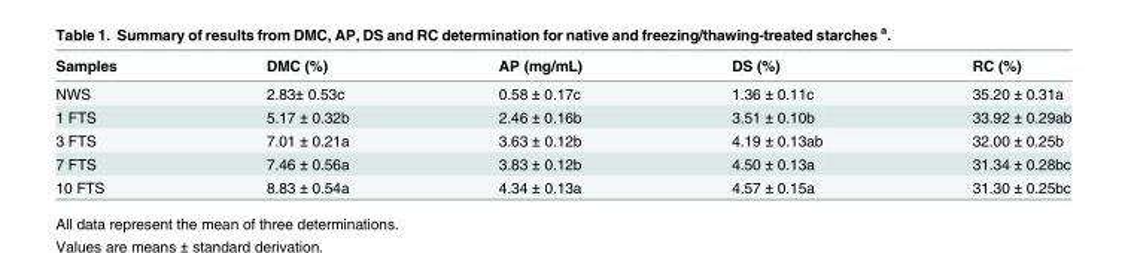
<table><thead><tr><td>Samples</td><td>DMC (%)</td><td>AP (mg/mL)</td><td>DS (%)</td><td>RC (%)</td></tr></thead><tbody><tr><td>NWS</td><td>2.83± 0.53c</td><td>0.58 ± 0.17c</td><td>1.36 ± 0.11c</td><td>35.20 ± 0.31a</td></tr><tr><td>1 FTS</td><td>5.17 ± 0.32b</td><td>2.46 ± 0.16b</td><td>3.51 ± 0.10b</td><td>33.92 ± 0.29ab</td></tr><tr><td>3 FTS</td><td>7.01 ± 0.21a</td><td>3.63 ± 0.12b</td><td>4.19 ± 0.13ab</td><td>32.00 ± 0.25b</td></tr><tr><td>7 FTS</td><td>7.46 ± 0.56a</td><td>3.83 ± 0.12b</td><td>4.50 ± 0.13a</td><td>31.34 ± 0.28bc</td></tr><tr><td>10 FTS</td><td>8.83 ± 0.54a</td><td>4.34 ± 0.13a</td><td>4.57 ± 0.15a</td><td>31.30 ± 0.25bc</td></tr></tbody></table>